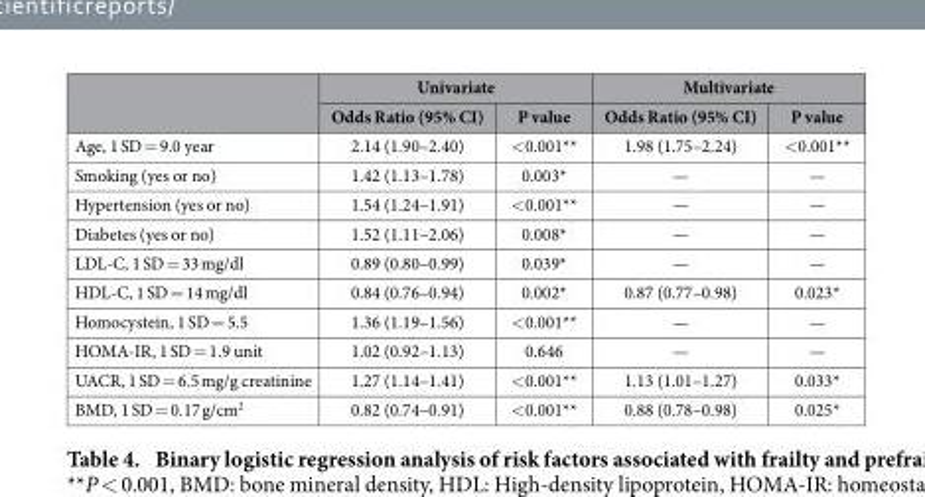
<table><thead><tr><td rowspan="2"></td><td colspan="2">Univariate</td><td colspan="2">Multivariate</td></tr><tr><td>Odds Ratio (95% CI)</td><td>P value</td><td>Odds Ratio (95% CI)</td><td>P value</td></tr></thead><tbody><tr><td>Age, 1 SD = 9.0 year</td><td>2.14 (1.90–2.40)</td><td>&lt; 0.001**</td><td>1.98 (1.75–2.24)</td><td>&lt; 0.001**</td></tr><tr><td>Smoking (yes or no)</td><td>1.42 (1.13–1.78)</td><td>0.003*</td><td>—</td><td>—</td></tr><tr><td>Hypertension (yes or no)</td><td>1.54 (1.24–1.91)</td><td>&lt; 0.001**</td><td>—</td><td>—</td></tr><tr><td>Diabetes (yes or no)</td><td>1.52 (1.11–2.06)</td><td>0.008*</td><td>—</td><td>—</td></tr><tr><td>LDL-C, 1 SD = 33 mg/dl</td><td>0.89 (0.80–0.99)</td><td>0.039*</td><td>—</td><td>—</td></tr><tr><td>HDL-C, 1 SD = 14 mg/dl</td><td>0.84 (0.76–0.94)</td><td>0.002*</td><td>0.87 (0.77–0.98)</td><td>0.023*</td></tr><tr><td>Homocystein, 1 SD = 5.5</td><td>1.36 (1.19–1.56)</td><td>&lt; 0.001**</td><td>—</td><td>—</td></tr><tr><td>HOMA-IR, 1 SD = 1.9 unit</td><td>1.02 (0.92–1.13)</td><td>0.646</td><td>—</td><td>—</td></tr><tr><td>UACR, 1 SD = 6.5 mg/g creatinine</td><td>1.27 (1.14–1.41)</td><td>&lt; 0.001**</td><td>1.13 (1.01–1.27)</td><td>0.033*</td></tr><tr><td>BMD, 1 SD = 0.17 g/cm<sup>2</sup></td><td>0.82 (0.74–0.91)</td><td>&lt; 0.001**</td><td>0.88 (0.78–0.98)</td><td>0.025*</td></tr></tbody></table>